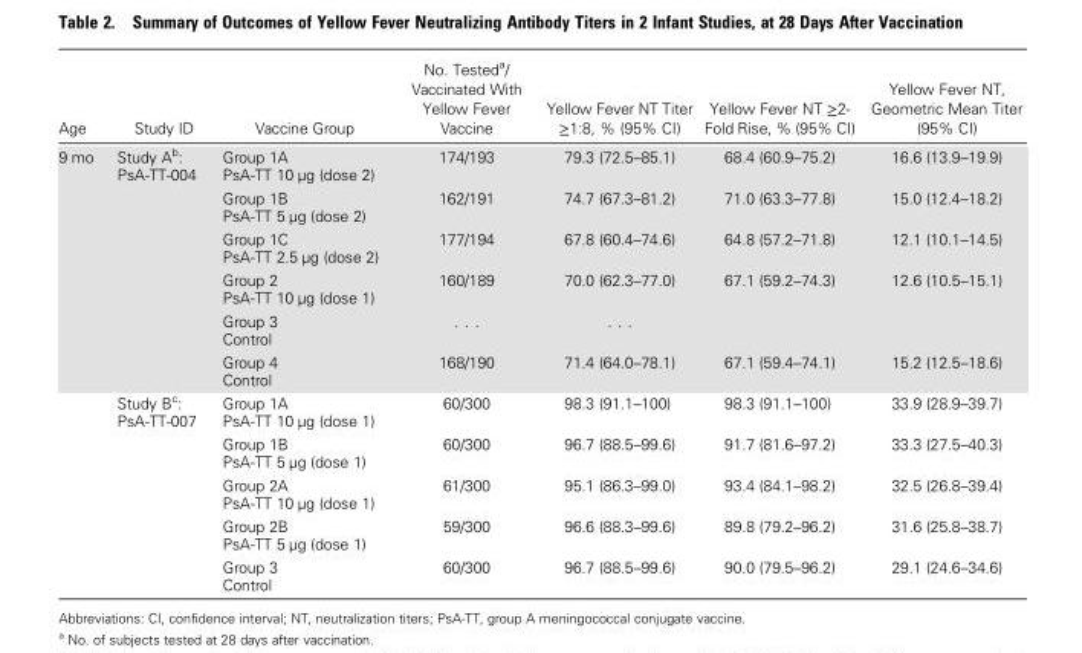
<table><thead><tr><td>Age</td><td>Study ID</td><td>Vaccine Group</td><td>No. Tested<sup>a</sup>/ Vaccinated With Yellow Fever Vaccine</td><td>Yellow Fever NT Titer ≥1:8, % (95% CI)</td><td>Yellow Fever NT ≥2- Fold Rise, % (95% CI)</td><td>Yellow Fever NT, Geometric Mean Titer (95% CI)</td></tr></thead><tbody><tr><td rowspan="11">9 mo</td><td>Study A<sup>b</sup>: PsA-TT-004</td><td>Group 1A PsA-TT 10 µg (dose 2)</td><td>174/193</td><td>79.3 (72.5–85.1)</td><td>68.4 (60.9–75.2)</td><td>16.6 (13.9–19.9)</td></tr><tr><td></td><td>Group 1B PsA-TT 5 µg (dose 2)</td><td>162/191</td><td>74.7 (67.3–81.2)</td><td>71.0 (63.3–77.8)</td><td>15.0 (12.4–18.2)</td></tr><tr><td></td><td>Group 1C PsA-TT 2.5 µg (dose 2)</td><td>177/194</td><td>67.8 (60.4–74.6)</td><td>64.8 (57.2–71.8)</td><td>12.1 (10.1–14.5)</td></tr><tr><td></td><td>Group 2 PsA-TT 10 µg (dose 1)</td><td>160/189</td><td>70.0 (62.3–77.0)</td><td>67.1 (59.2–74.3)</td><td>12.6 (10.5–15.1)</td></tr><tr><td></td><td>Group 3 Control</td><td>. . .</td><td>. . .</td><td></td><td></td></tr><tr><td></td><td>Group 4 Control</td><td>168/190</td><td>71.4 (64.0–78.1)</td><td>67.1 (59.4–74.1)</td><td>15.2 (12.5–18.6)</td></tr><tr><td>Study B<sup>c</sup>: PsA-TT-007</td><td>Group 1A PsA-TT 10 µg (dose 1)</td><td>60/300</td><td>98.3 (91.1–100)</td><td>98.3 (91.1–100)</td><td>33.9 (28.9–39.7)</td></tr><tr><td></td><td>Group 1B PsA-TT 5 µg (dose 1)</td><td>60/300</td><td>96.7 (88.5–99.6)</td><td>91.7 (81.6–97.2)</td><td>33.3 (27.5–40.3)</td></tr><tr><td></td><td>Group 2A PsA-TT 10 µg (dose 1)</td><td>61/300</td><td>95.1 (86.3–99.0)</td><td>93.4 (84.1–98.2)</td><td>32.5 (26.8–39.4)</td></tr><tr><td></td><td>Group 2B PsA-TT 5 µg (dose 1)</td><td>59/300</td><td>96.6 (88.3–99.6)</td><td>89.8 (79.2–96.2)</td><td>31.6 (25.8–38.7)</td></tr><tr><td></td><td>Group 3 Control</td><td>60/300</td><td>96.7 (88.5–99.6)</td><td>90.0 (79.5–96.2)</td><td>29.1 (24.6–34.6)</td></tr></tbody></table>